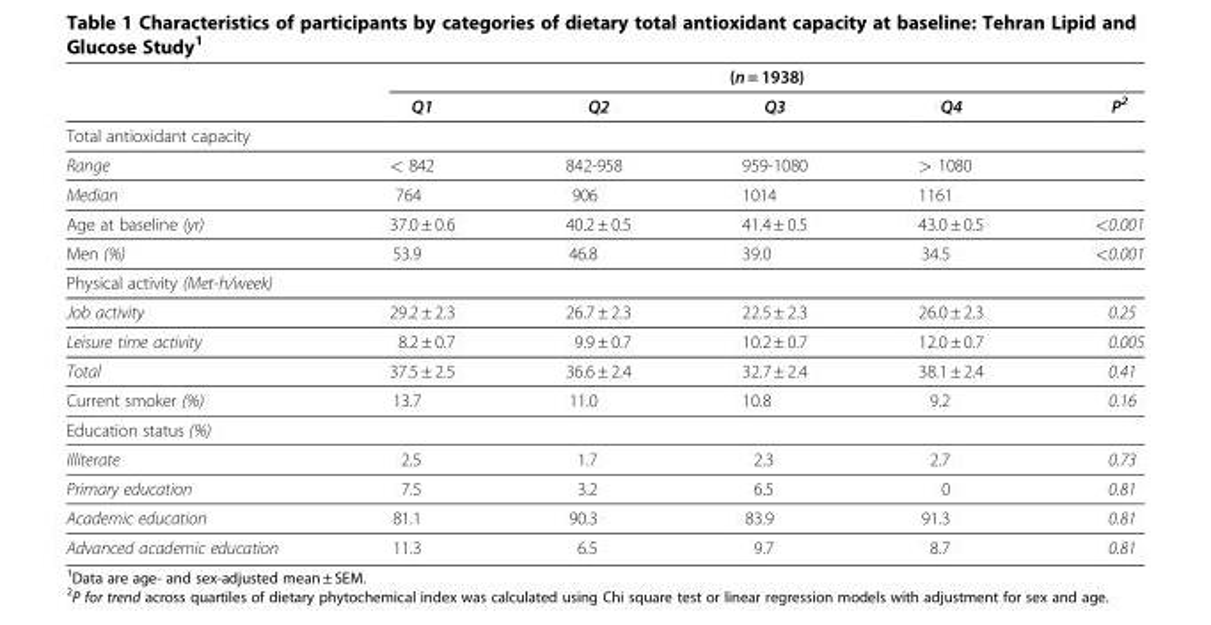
<table><thead><tr><td rowspan="2"></td><td colspan="5">(n = 1938)</td></tr><tr><td>Q1</td><td>Q2</td><td>Q3</td><td>Q4</td><td>P<sup>2</sup></td></tr></thead><tbody><tr><td colspan="6">Total antioxidant capacity</td></tr><tr><td>Range</td><td>&lt; 842</td><td>842-958</td><td>959-1080</td><td>&gt; 1080</td><td></td></tr><tr><td>Median</td><td>764</td><td>906</td><td>1014</td><td>1161</td><td></td></tr><tr><td>Age at baseline (yr)</td><td>37.0 ± 0.6</td><td>40.2 ± 0.5</td><td>41.4 ± 0.5</td><td>43.0 ± 0.5</td><td>&lt;0.001</td></tr><tr><td>Men (%)</td><td>53.9</td><td>46.8</td><td>39.0</td><td>34.5</td><td>&lt;0.001</td></tr><tr><td colspan="6">Physical activity (Met-h/week)</td></tr><tr><td>Job activity</td><td>29.2 ± 2.3</td><td>26.7 ± 2.3</td><td>22.5 ± 2.3</td><td>26.0 ± 2.3</td><td>0.25</td></tr><tr><td>Leisure time activity</td><td>8.2 ± 0.7</td><td>9.9 ± 0.7</td><td>10.2 ± 0.7</td><td>12.0 ± 0.7</td><td>0.005</td></tr><tr><td>Total</td><td>37.5 ± 2.5</td><td>36.6 ± 2.4</td><td>32.7 ± 2.4</td><td>38.1 ± 2.4</td><td>0.41</td></tr><tr><td>Current smoker (%)</td><td>13.7</td><td>11.0</td><td>10.8</td><td>9.2</td><td>0.16</td></tr><tr><td colspan="6">Education status (%)</td></tr><tr><td>Illiterate</td><td>2.5</td><td>1.7</td><td>2.3</td><td>2.7</td><td>0.73</td></tr><tr><td>Primary education</td><td>7.5</td><td>3.2</td><td>6.5</td><td>0</td><td>0.81</td></tr><tr><td>Academic education</td><td>81.1</td><td>90.3</td><td>83.9</td><td>91.3</td><td>0.81</td></tr><tr><td>Advanced academic education</td><td>11.3</td><td>6.5</td><td>9.7</td><td>8.7</td><td>0.81</td></tr></tbody></table>